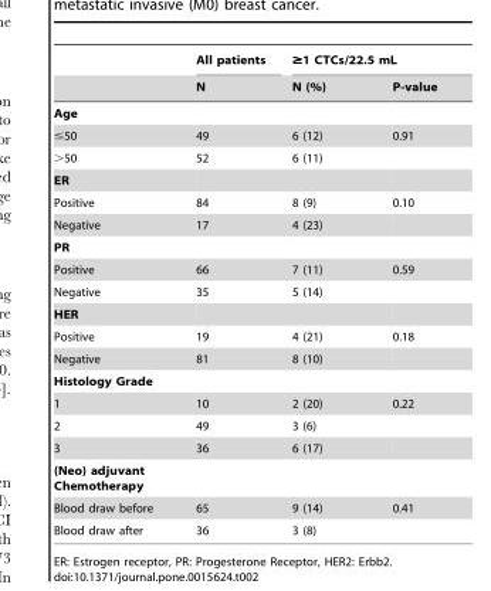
<table><thead><tr><td rowspan="2"></td><td rowspan="2">All patients N</td><td colspan="2">≥1 CTCs/22.5 mL</td></tr><tr><td>N (%)</td><td>P-value</td></tr></thead><tbody><tr><td colspan="4">Age</td></tr><tr><td>≤50</td><td>49</td><td>6 (12)</td><td>0.91</td></tr><tr><td>&gt;50</td><td>52</td><td>6 (11)</td><td></td></tr><tr><td colspan="4">ER</td></tr><tr><td>Positive</td><td>84</td><td>8 (9)</td><td>0.10</td></tr><tr><td>Negative</td><td>17</td><td>4 (23)</td><td></td></tr><tr><td colspan="4">PR</td></tr><tr><td>Positive</td><td>66</td><td>7 (11)</td><td>0.59</td></tr><tr><td>Negative</td><td>35</td><td>5 (14)</td><td></td></tr><tr><td colspan="4">HER</td></tr><tr><td>Positive</td><td>19</td><td>4 (21)</td><td>0.18</td></tr><tr><td>Negative</td><td>81</td><td>8 (10)</td><td></td></tr><tr><td colspan="4">Histology Grade</td></tr><tr><td>1</td><td>10</td><td>2 (20)</td><td>0.22</td></tr><tr><td>2</td><td>49</td><td>3 (6)</td><td></td></tr><tr><td>3</td><td>36</td><td>6 (17)</td><td></td></tr><tr><td colspan="4">(Neo) adjuvant Chemotherapy</td></tr><tr><td>Blood draw before</td><td>65</td><td>9 (14)</td><td>0.41</td></tr><tr><td>Blood draw after</td><td>36</td><td>3 (8)</td><td></td></tr></tbody></table>